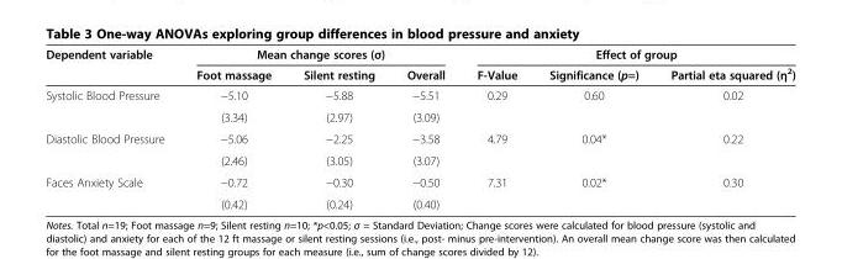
<table><thead><tr><td rowspan="2">Dependent variable</td><td colspan="3">Mean change scores (σ)</td><td colspan="3">Effect of group</td></tr><tr><td>Foot massage</td><td>Silent resting</td><td>Overall</td><td>F-Value</td><td>Significance (p=)</td><td>Partial eta squared (η<sup>2</sup>)</td></tr></thead><tbody><tr><td rowspan="2">Systolic Blood Pressure</td><td>−5.10</td><td>−5.88</td><td>−5.51</td><td>0.29</td><td>0.60</td><td>0.02</td></tr><tr><td>(3.34)</td><td>(2.97)</td><td>(3.09)</td><td></td><td></td><td></td></tr><tr><td rowspan="2">Diastolic Blood Pressure</td><td>−5.06</td><td>−2.25</td><td>−3.58</td><td>4.79</td><td>0.04*</td><td>0.22</td></tr><tr><td>(2.46)</td><td>(3.05)</td><td>(3.07)</td><td></td><td></td><td></td></tr><tr><td rowspan="2">Faces Anxiety Scale</td><td>−0.72</td><td>−0.30</td><td>−0.50</td><td>7.31</td><td>0.02*</td><td>0.30</td></tr><tr><td>(0.42)</td><td>(0.24)</td><td>(0.40)</td><td></td><td></td><td></td></tr></tbody></table>